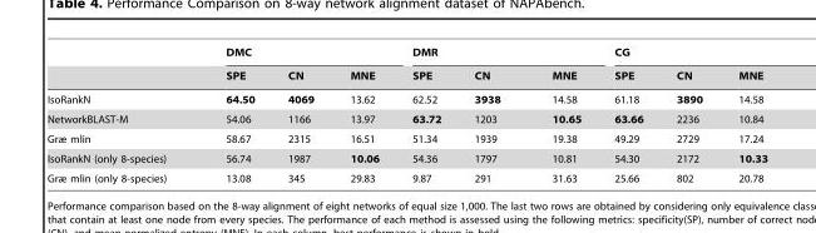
<table><thead><tr><td rowspan="2"></td><td colspan="3">DMC</td><td colspan="3">DMR</td><td colspan="3">CG</td></tr><tr><td>SPE</td><td>CN</td><td>MNE</td><td>SPE</td><td>CN</td><td>MNE</td><td>SPE</td><td>CN</td><td>MNE</td></tr></thead><tbody><tr><td>IsoRankN</td><td>64.50</td><td>4069</td><td>13.62</td><td>62.52</td><td>3938</td><td>14.58</td><td>61.18</td><td>3890</td><td>14.58</td></tr><tr><td>NetworkBLAST-M</td><td>54.06</td><td>1166</td><td>13.97</td><td>63.72</td><td>1203</td><td>10.65</td><td>63.66</td><td>2236</td><td>10.84</td></tr><tr><td>Græ mlin</td><td>58.67</td><td>2315</td><td>16.51</td><td>51.34</td><td>1939</td><td>19.38</td><td>49.29</td><td>2729</td><td>17.24</td></tr><tr><td>IsoRankN (only 8-species)</td><td>56.74</td><td>1987</td><td>10.06</td><td>54.36</td><td>1797</td><td>10.81</td><td>54.30</td><td>2172</td><td>10.33</td></tr><tr><td>Græ mlin (only 8-species)</td><td>13.08</td><td>345</td><td>29.83</td><td>9.87</td><td>291</td><td>31.63</td><td>25.66</td><td>802</td><td>20.78</td></tr></tbody></table>